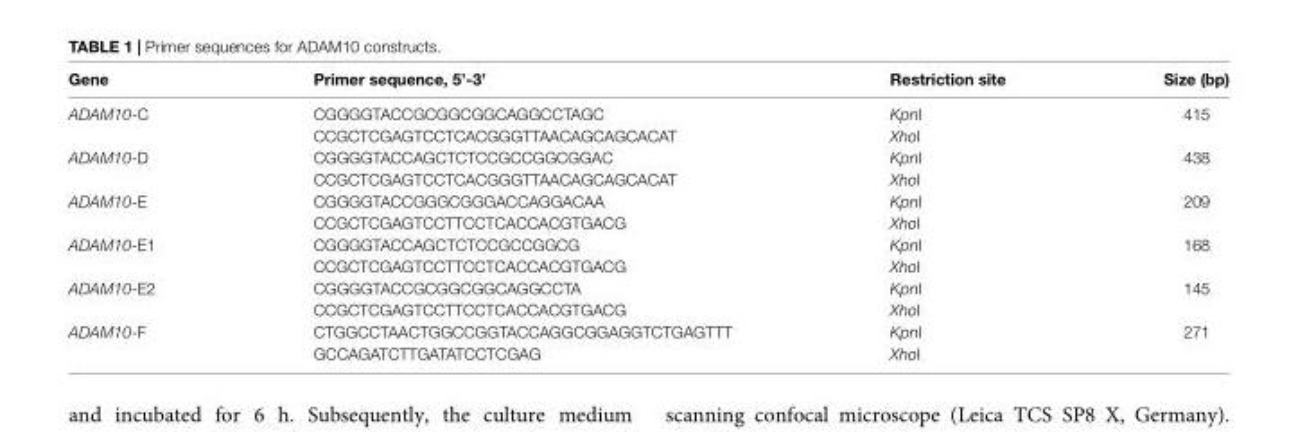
<table><thead><tr><td>Gene</td><td>Primer sequence, 5’-3’</td><td>Restriction site</td><td>Size (bp)</td></tr></thead><tbody><tr><td rowspan="2">ADAM10-C</td><td>CGGGGTACCGCGGCGGCAGGCCTAGC</td><td>KpnI</td><td>415</td></tr><tr><td>CCGCTCGAGTCCTCACGGGTTAACAGCAGCACAT</td><td>XhoI</td><td></td></tr><tr><td rowspan="2">ADAM10-D</td><td>CGGGGTACCAGCTCTCCGCCGGCGGAC</td><td>KpnI</td><td>438</td></tr><tr><td>CCGCTCGAGTCCTCACGGGTTAACAGCAGCACAT</td><td>XhoI</td><td></td></tr><tr><td rowspan="2">ADAM10-E</td><td>CGGGGTACCGGGCGGGACCAGGACAA</td><td>KpnI</td><td>209</td></tr><tr><td>CCGCTCGAGTCCTTCCTCACCACGTGACG</td><td>XhoI</td><td></td></tr><tr><td rowspan="2">ADAM10-E1</td><td>CGGGGTACCAGCTCTCCGCCGGCG</td><td>KpnI</td><td>168</td></tr><tr><td>CCGCTCGAGTCCTTCCTCACCACGTGACG</td><td>XhoI</td><td></td></tr><tr><td rowspan="2">ADAM10-E2</td><td>CGGGGTACCGCGGCGGCAGGCCTA</td><td>KpnI</td><td>145</td></tr><tr><td>CCGCTCGAGTCCTTCCTCACCACGTGACG</td><td>XhoI</td><td></td></tr><tr><td rowspan="2">ADAM10-F</td><td>CTGGCCTAACTGGCCGGTACCAGGCGGAGGTCTGAGTTT</td><td>KpnI</td><td>271</td></tr><tr><td>GCCAGATCTTGATATCCTCGAG</td><td>XhoI</td><td></td></tr></tbody></table>